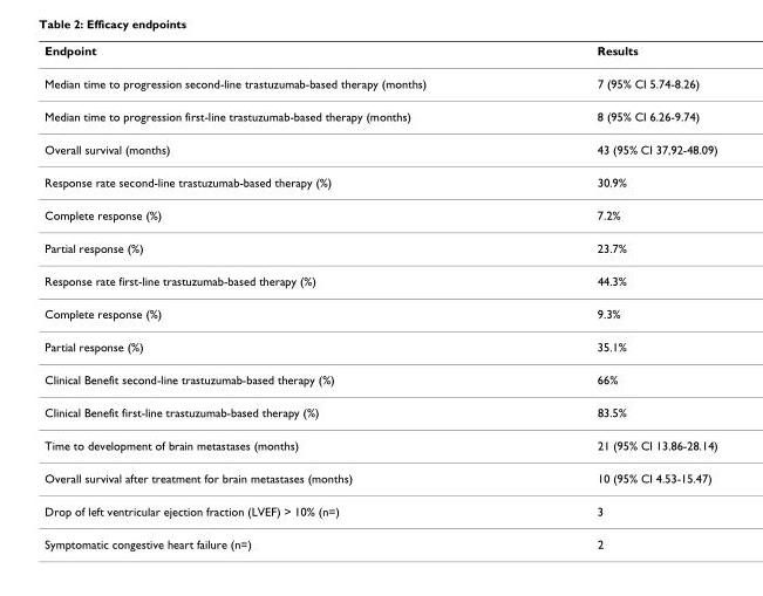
<table><thead><tr><td>Endpoint</td><td>Results</td></tr></thead><tbody><tr><td>Median time to progression second-line trastuzumab-based therapy (months)</td><td>7 (95% CI 5.74-8.26)</td></tr><tr><td>Median time to progression first-line trastuzumab-based therapy (months)</td><td>8 (95% CI 6.26-9.74)</td></tr><tr><td>Overall survival (months)</td><td>43 (95% CI 37,92-48.09)</td></tr><tr><td>Response rate second-line trastuzumab-based therapy (%)</td><td>30.9%</td></tr><tr><td>Complete response (%)</td><td>7.2%</td></tr><tr><td>Partial response (%)</td><td>23.7%</td></tr><tr><td>Response rate first-line trastuzumab-based therapy (%)</td><td>44.3%</td></tr><tr><td>Complete response (%)</td><td>9.3%</td></tr><tr><td>Partial response (%)</td><td>35.1%</td></tr><tr><td>Clinical Benefit second-line trastuzumab-based therapy (%)</td><td>66%</td></tr><tr><td>Clinical Benefit first-line trastuzumab-based therapy (%)</td><td>83.5%</td></tr><tr><td>Time to development of brain metastases (months)</td><td>21 (95% CI 13.86-28.14)</td></tr><tr><td>Overall survival after treatment for brain metastases (months)</td><td>10 (95% CI 4.53-15.47)</td></tr><tr><td>Drop of left ventricular ejection fraction (LVEF) &gt; 10% (n=)</td><td>3</td></tr><tr><td>Symptomatic congestive heart failure (n=)</td><td>2</td></tr></tbody></table>